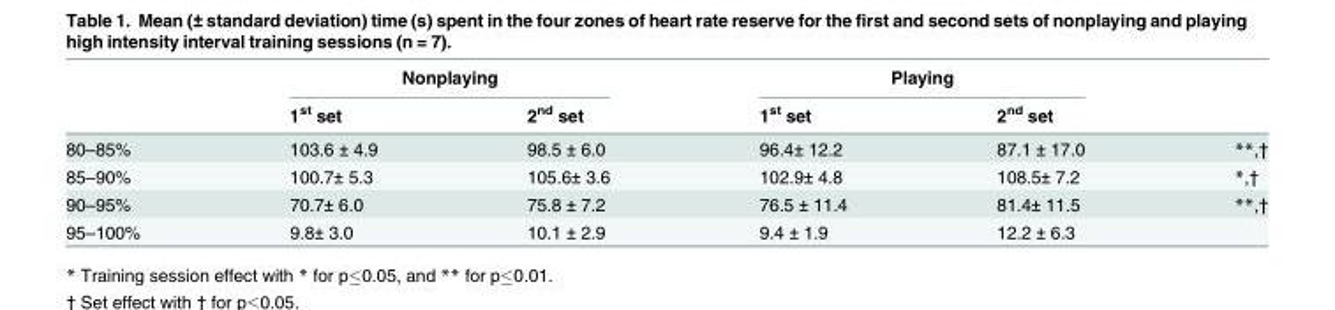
<table><thead><tr><td rowspan="2"></td><td colspan="2">Nonplaying</td><td colspan="2">Playing</td><td rowspan="2"></td></tr><tr><td>1<sup>st</sup> set</td><td>2<sup>nd</sup> set</td><td>1<sup>st</sup> set</td><td>2<sup>nd</sup> set</td></tr></thead><tbody><tr><td>80–85%</td><td>103.6 ± 4.9</td><td>98.5 ± 6.0</td><td>96.4± 12.2</td><td>87.1 ± 17.0</td><td>**,†</td></tr><tr><td>85–90%</td><td>100.7± 5.3</td><td>105.6± 3.6</td><td>102.9± 4.8</td><td>108.5± 7.2</td><td>*,†</td></tr><tr><td>90–95%</td><td>70.7± 6.0</td><td>75.8 ± 7.2</td><td>76.5 ± 11.4</td><td>81.4± 11.5</td><td>**,†</td></tr><tr><td>95–100%</td><td>9.8± 3.0</td><td>10.1 ± 2.9</td><td>9.4 ± 1.9</td><td>12.2 ± 6.3</td><td></td></tr></tbody></table>